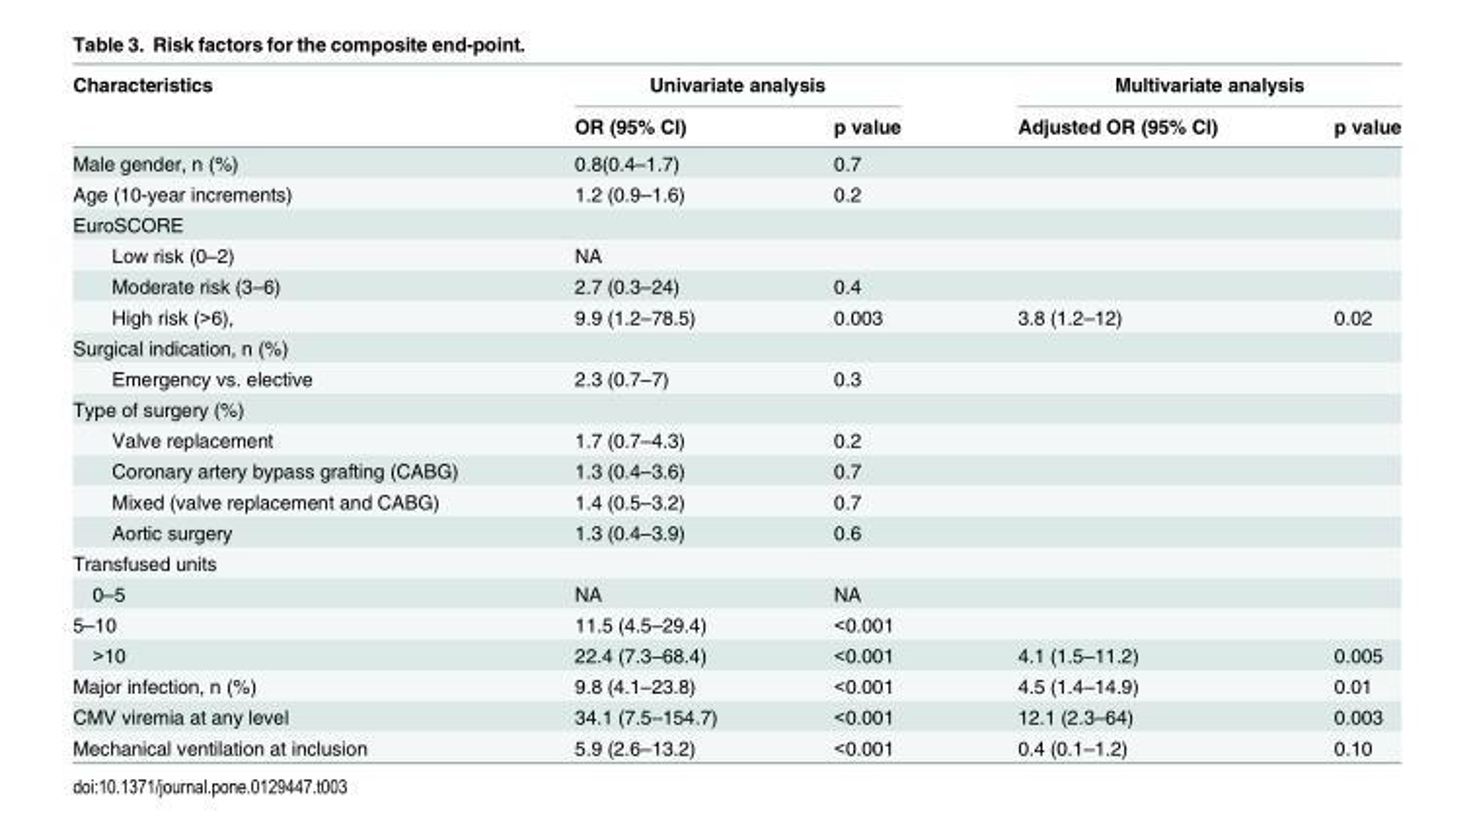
<table><thead><tr><td rowspan="2">Characteristics</td><td colspan="2">Univariate analysis</td><td colspan="2">Multivariate analysis</td></tr><tr><td>OR (95% CI)</td><td>p value</td><td>Adjusted OR (95% CI)</td><td>p value</td></tr></thead><tbody><tr><td>Male gender, n (%)</td><td>0.8(0.4–1.7)</td><td>0.7</td><td></td><td></td></tr><tr><td>Age (10-year increments)</td><td>1.2 (0.9–1.6)</td><td>0.2</td><td></td><td></td></tr><tr><td colspan="5">EuroSCORE</td></tr><tr><td>Low risk (0–2)</td><td>NA</td><td></td><td></td><td></td></tr><tr><td>Moderate risk (3–6)</td><td>2.7 (0.3–24)</td><td>0.4</td><td></td><td></td></tr><tr><td>High risk (&gt;6),</td><td>9.9 (1.2–78.5)</td><td>0.003</td><td>3.8 (1.2–12)</td><td>0.02</td></tr><tr><td colspan="5">Surgical indication, n (%)</td></tr><tr><td>Emergency vs. elective</td><td>2.3 (0.7–7)</td><td>0.3</td><td></td><td></td></tr><tr><td colspan="5">Type of surgery (%)</td></tr><tr><td>Valve replacement</td><td>1.7 (0.7–4.3)</td><td>0.2</td><td></td><td></td></tr><tr><td>Coronary artery bypass grafting (CABG)</td><td>1.3 (0.4–3.6)</td><td>0.7</td><td></td><td></td></tr><tr><td>Mixed (valve replacement and CABG)</td><td>1.4 (0.5–3.2)</td><td>0.7</td><td></td><td></td></tr><tr><td>Aortic surgery</td><td>1.3 (0.4–3.9)</td><td>0.6</td><td></td><td></td></tr><tr><td colspan="5">Transfused units</td></tr><tr><td>0–5</td><td>NA</td><td>NA</td><td></td><td></td></tr><tr><td>5–10</td><td>11.5 (4.5–29.4)</td><td>&lt;0.001</td><td></td><td></td></tr><tr><td>&gt;10</td><td>22.4 (7.3–68.4)</td><td>&lt;0.001</td><td>4.1 (1.5–11.2)</td><td>0.005</td></tr><tr><td>Major infection, n (%)</td><td>9.8 (4.1–23.8)</td><td>&lt;0.001</td><td>4.5 (1.4–14.9)</td><td>0.01</td></tr><tr><td>CMV viremia at any level</td><td>34.1 (7.5–154.7)</td><td>&lt;0.001</td><td>12.1 (2.3–64)</td><td>0.003</td></tr><tr><td>Mechanical ventilation at inclusion</td><td>5.9 (2.6–13.2)</td><td>&lt;0.001</td><td>0.4 (0.1–1.2)</td><td>0.10</td></tr></tbody></table>